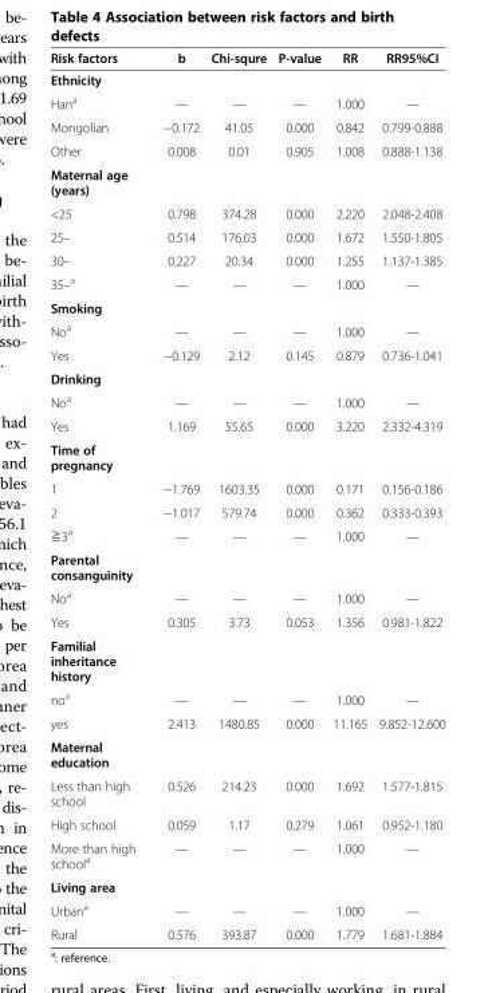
<table><thead><tr><td>Risk factors</td><td>b</td><td>Chi-squre</td><td>P-value</td><td>RR</td><td>RR95%CI</td></tr></thead><tbody><tr><td colspan="6">Ethnicity</td></tr><tr><td>Han<sup>a</sup></td><td>—</td><td>—</td><td>—</td><td>1.000</td><td>—</td></tr><tr><td>Mongolian</td><td>−0.172</td><td>41.05</td><td>0.000</td><td>0.842</td><td>0.799-0.888</td></tr><tr><td>Other</td><td>0.008</td><td>0.01</td><td>0.905</td><td>1.008</td><td>0.888-1.138</td></tr><tr><td colspan="6">Maternal age (years)</td></tr><tr><td>&lt;25</td><td>0.798</td><td>374.28</td><td>0.000</td><td>2.220</td><td>2.048-2.408</td></tr><tr><td>25–</td><td>0.514</td><td>176.03</td><td>0.000</td><td>1.672</td><td>1.550-1.805</td></tr><tr><td>30–</td><td>0.227</td><td>20.34</td><td>0.000</td><td>1.255</td><td>1.137-1.385</td></tr><tr><td>35–a</td><td>—</td><td>—</td><td>—</td><td>1.000</td><td>—</td></tr><tr><td colspan="6">Smoking</td></tr><tr><td>No<sup>a</sup></td><td>—</td><td>—</td><td>—</td><td>1.000</td><td>—</td></tr><tr><td>Yes</td><td>−0.129</td><td>2.12</td><td>0.145</td><td>0.879</td><td>0.736-1.041</td></tr><tr><td colspan="6">Drinking</td></tr><tr><td>No<sup>a</sup></td><td>—</td><td>—</td><td>—</td><td>1.000</td><td>—</td></tr><tr><td>Yes</td><td>1.169</td><td>55.65</td><td>0.000</td><td>3.220</td><td>2.332-4.319</td></tr><tr><td colspan="6">Time of pregnancy</td></tr><tr><td>1</td><td>−1.769</td><td>1603.35</td><td>0.000</td><td>0.171</td><td>0.156-0.186</td></tr><tr><td>2</td><td>−1.017</td><td>579.74</td><td>0.000</td><td>0.362</td><td>0.333-0.393</td></tr><tr><td>≧3<sup>a</sup></td><td>—</td><td>—</td><td>—</td><td>1.000</td><td>—</td></tr><tr><td colspan="6">Parental consanguinity</td></tr><tr><td>No<sup>a</sup></td><td>—</td><td>—</td><td>—</td><td>1.000</td><td>—</td></tr><tr><td>Yes</td><td>0.305</td><td>3.73</td><td>0.053</td><td>1.356</td><td>0.981-1.822</td></tr><tr><td colspan="6">Familial inheritance history</td></tr><tr><td>no<sup>a</sup></td><td>—</td><td>—</td><td>—</td><td>1.000</td><td>—</td></tr><tr><td>yes</td><td>2.413</td><td>1480.85</td><td>0.000</td><td>11.165</td><td>9.852-12.600</td></tr><tr><td colspan="6">Maternal education</td></tr><tr><td>Less than high school</td><td>0.526</td><td>214.23</td><td>0.000</td><td>1.692</td><td>1.577-1.815</td></tr><tr><td>High school</td><td>0.059</td><td>1.17</td><td>0.279</td><td>1.061</td><td>0.952-1.180</td></tr><tr><td>More than high school<sup>a</sup></td><td>—</td><td>—</td><td>—</td><td>1.000</td><td>—</td></tr><tr><td colspan="6">Living area</td></tr><tr><td>Urban<sup>a</sup></td><td>—</td><td>—</td><td>—</td><td>1.000</td><td>—</td></tr><tr><td>Rural</td><td>0.576</td><td>393.87</td><td>0.000</td><td>1.779</td><td>1.681-1.884</td></tr></tbody></table>